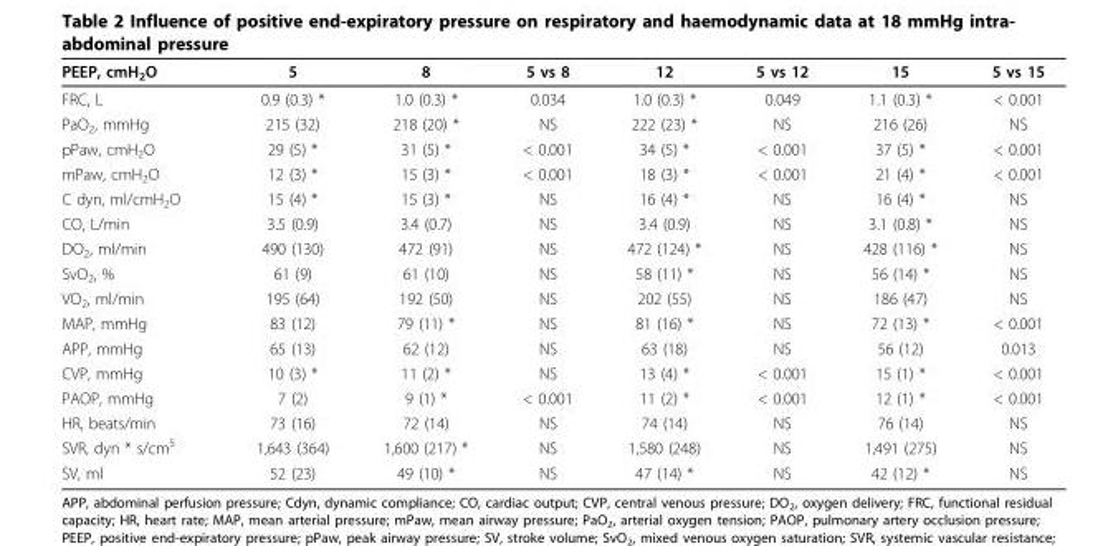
<table><thead><tr><td>PEEP, cmH<sub>2</sub>O</td><td>5</td><td>8</td><td>5 vs 8</td><td>12</td><td>5 vs 12</td><td>15</td><td>5 vs 15</td></tr></thead><tbody><tr><td>FRC, L</td><td>0.9 (0.3) *</td><td>1.0 (0.3) *</td><td>0.034</td><td>1.0 (0.3) *</td><td>0.049</td><td>1.1 (0.3) *</td><td>&lt; 0.001</td></tr><tr><td>PaO<sub>2</sub>, mmHg</td><td>215 (32)</td><td>218 (20) *</td><td>NS</td><td>222 (23) *</td><td>NS</td><td>216 (26)</td><td>NS</td></tr><tr><td>pPaw, cmH<sub>2</sub>O</td><td>29 (5) *</td><td>31 (5) *</td><td>&lt; 0.001</td><td>34 (5) *</td><td>&lt; 0.001</td><td>37 (5) *</td><td>&lt; 0.001</td></tr><tr><td>mPaw, cmH<sub>2</sub>O</td><td>12 (3) *</td><td>15 (3) *</td><td>&lt; 0.001</td><td>18 (3) *</td><td>&lt; 0.001</td><td>21 (4) *</td><td>&lt; 0.001</td></tr><tr><td>C dyn, ml/cmH<sub>2</sub>O</td><td>15 (4) *</td><td>15 (3) *</td><td>NS</td><td>16 (4) *</td><td>NS</td><td>16 (4) *</td><td>NS</td></tr><tr><td>CO, L/min</td><td>3.5 (0.9)</td><td>3.4 (0.7)</td><td>NS</td><td>3.4 (0.9)</td><td>NS</td><td>3.1 (0.8) *</td><td>NS</td></tr><tr><td>DO<sub>2</sub>, ml/min</td><td>490 (130)</td><td>472 (91)</td><td>NS</td><td>472 (124) *</td><td>NS</td><td>428 (116) *</td><td>NS</td></tr><tr><td>SvO<sub>2</sub>, %</td><td>61 (9)</td><td>61 (10)</td><td>NS</td><td>58 (11) *</td><td>NS</td><td>56 (14) *</td><td>NS</td></tr><tr><td>VO<sub>2</sub>, ml/min</td><td>195 (64)</td><td>192 (50)</td><td>NS</td><td>202 (55)</td><td>NS</td><td>186 (47)</td><td>NS</td></tr><tr><td>MAP, mmHg</td><td>83 (12)</td><td>79 (11) *</td><td>NS</td><td>81 (16) *</td><td>NS</td><td>72 (13) *</td><td>&lt; 0.001</td></tr><tr><td>APP, mmHg</td><td>65 (13)</td><td>62 (12)</td><td>NS</td><td>63 (18)</td><td>NS</td><td>56 (12)</td><td>0.013</td></tr><tr><td>CVP, mmHg</td><td>10 (3) *</td><td>11 (2) *</td><td>NS</td><td>13 (4) *</td><td>&lt; 0.001</td><td>15 (1) *</td><td>&lt; 0.001</td></tr><tr><td>PAOP, mmHg</td><td>7 (2)</td><td>9 (1) *</td><td>&lt; 0.001</td><td>11 (2) *</td><td>&lt; 0.001</td><td>12 (1) *</td><td>&lt; 0.001</td></tr><tr><td>HR, beats/min</td><td>73 (16)</td><td>72 (14)</td><td>NS</td><td>74 (14)</td><td>NS</td><td>76 (14)</td><td>NS</td></tr><tr><td>SVR, dyn * s/cm<sup>5</sup></td><td>1,643 (364)</td><td>1,600 (217) *</td><td>NS</td><td>1,580 (248)</td><td>NS</td><td>1,491 (275)</td><td>NS</td></tr><tr><td>SV, ml</td><td>52 (23)</td><td>49 (10) *</td><td>NS</td><td>47 (14) *</td><td>NS</td><td>42 (12) *</td><td>NS</td></tr></tbody></table>